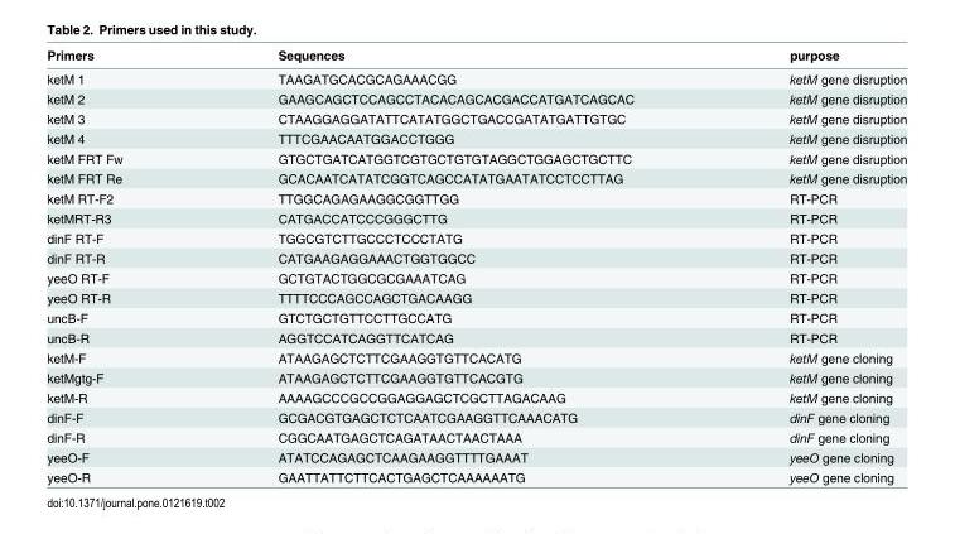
<table><thead><tr><td>Primers</td><td>Sequences</td><td>purpose</td></tr></thead><tbody><tr><td>ketM 1</td><td>TAAGATGCACGCAGAAACGG</td><td>ketM gene disruption</td></tr><tr><td>ketM 2</td><td>GAAGCAGCTCCAGCCTACACAGCACGACCATGATCAGCAC</td><td>ketM gene disruption</td></tr><tr><td>ketM 3</td><td>CTAAGGAGGATATTCATATGGCTGACCGATATGATTGTGC</td><td>ketM gene disruption</td></tr><tr><td>ketM 4</td><td>TTTCGAACAATGGACCTGGG</td><td>ketM gene disruption</td></tr><tr><td>ketM FRT Fw</td><td>GTGCTGATCATGGTCGTGCTGTGTAGGCTGGAGCTGCTTC</td><td>ketM gene disruption</td></tr><tr><td>ketM FRT Re</td><td>GCACAATCATATCGGTCAGCCATATGAATATCCTCCTTAG</td><td>ketM gene disruption</td></tr><tr><td>ketM RT-F2</td><td>TTGGCAGAGAAGGCGGTTGG</td><td>RT-PCR</td></tr><tr><td>ketMRT-R3</td><td>CATGACCATCCCGGGCTTG</td><td>RT-PCR</td></tr><tr><td>dinF RT-F</td><td>TGGCGTCTTGCCCTCCCTATG</td><td>RT-PCR</td></tr><tr><td>dinF RT-R</td><td>CATGAAGAGGAAACTGGTGGCC</td><td>RT-PCR</td></tr><tr><td>yeeO RT-F</td><td>GCTGTACTGGCGCGAAATCAG</td><td>RT-PCR</td></tr><tr><td>yeeO RT-R</td><td>TTTTCCCAGCCAGCTGACAAGG</td><td>RT-PCR</td></tr><tr><td>uncB-F</td><td>GTCTGCTGTTCCTTGCCATG</td><td>RT-PCR</td></tr><tr><td>uncB-R</td><td>AGGTCCATCAGGTTCATCAG</td><td>RT-PCR</td></tr><tr><td>ketM-F</td><td>ATAAGAGCTCTTCGAAGGTGTTCACATG</td><td>ketM gene cloning</td></tr><tr><td>ketMgtg-F</td><td>ATAAGAGCTCTTCGAAGGTGTTCACGTG</td><td>ketM gene cloning</td></tr><tr><td>ketM-R</td><td>AAAAGCCCGCCGGAGGAGCTCGCTTAGACAAG</td><td>ketM gene cloning</td></tr><tr><td>dinF-F</td><td>GCGACGTGAGCTCTCAATCGAAGGTTCAAACATG</td><td>dinF gene cloning</td></tr><tr><td>dinF-R</td><td>CGGCAATGAGCTCAGATAACTAACTAAA</td><td>dinF gene cloning</td></tr><tr><td>yeeO-F</td><td>ATATCCAGAGCTCAAGAAGGTTTTGAAAT</td><td>yeeO gene cloning</td></tr><tr><td>yeeO-R</td><td>GAATTATTCTTCACTGAGCTCAAAAAATG</td><td>yeeO gene cloning</td></tr></tbody></table>